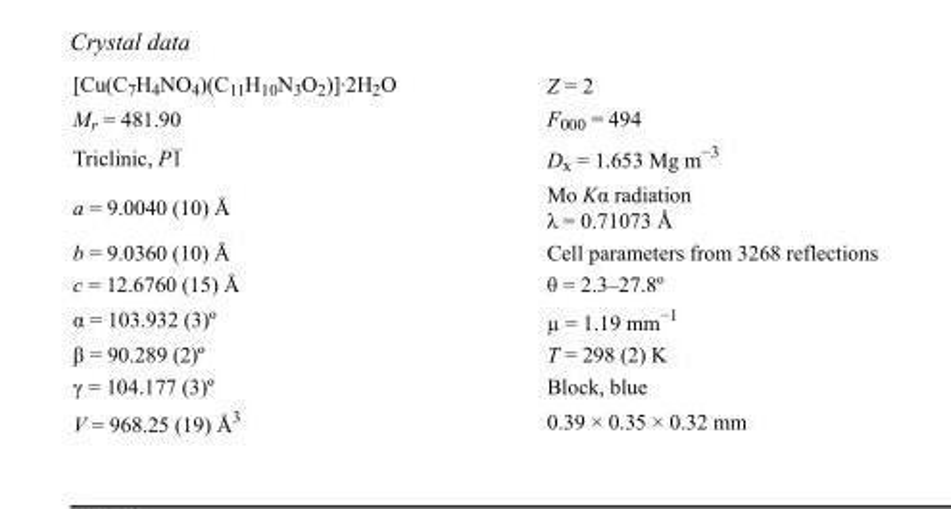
<table><tbody><tr><td>[Cu(C<sub>7</sub>H<sub>4</sub>NO<sub>4</sub>)(C<sub>11</sub>H<sub>10</sub>N<sub>3</sub>O<sub>2</sub>)]·2H<sub>2</sub>O</td><td>Z = 2</td></tr><tr><td>M<sub>r</sub> = 481.90</td><td>F<sub>000</sub> = 494</td></tr><tr><td>Triclinic, P1</td><td>D<sub>x</sub> = 1.653 Mg m<sup>−3</sup></td></tr><tr><td>a = 9.0040 (10) Å</td><td>Mo Kα radiation λ = 0.71073 Å</td></tr><tr><td>b = 9.0360 (10) Å</td><td>Cell parameters from 3268 reflections</td></tr><tr><td>c = 12.6760 (15) Å</td><td>θ = 2.3–27.8º</td></tr><tr><td>α = 103.932 (3)º</td><td>µ = 1.19 mm<sup>−1</sup></td></tr><tr><td>β = 90.289 (2)º</td><td>T = 298 (2) K</td></tr><tr><td>γ = 104.177 (3)º</td><td>Block, blue</td></tr><tr><td>V = 968.25 (19) Å<sup>3</sup></td><td>0.39 × 0.35 × 0.32 mm</td></tr></tbody></table>